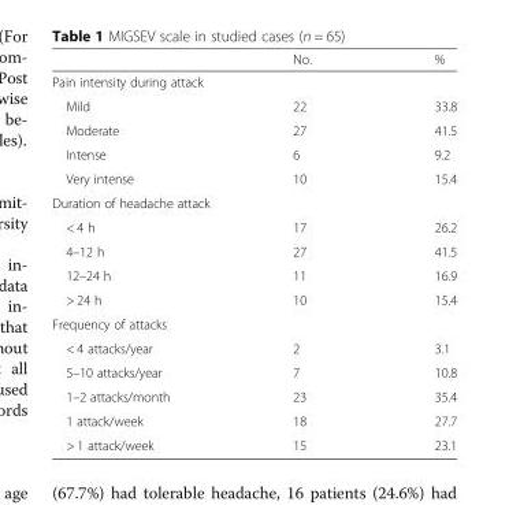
<table><thead><tr><td></td><td>No.</td><td>%</td></tr></thead><tbody><tr><td colspan="3">Pain intensity during attack</td></tr><tr><td>Mild</td><td>22</td><td>33.8</td></tr><tr><td>Moderate</td><td>27</td><td>41.5</td></tr><tr><td>Intense</td><td>6</td><td>9.2</td></tr><tr><td>Very intense</td><td>10</td><td>15.4</td></tr><tr><td colspan="3">Duration of headache attack</td></tr><tr><td>&lt; 4 h</td><td>17</td><td>26.2</td></tr><tr><td>4–12 h</td><td>27</td><td>41.5</td></tr><tr><td>12–24 h</td><td>11</td><td>16.9</td></tr><tr><td>&gt; 24 h</td><td>10</td><td>15.4</td></tr><tr><td colspan="3">Frequency of attacks</td></tr><tr><td>&lt; 4 attacks/year</td><td>2</td><td>3.1</td></tr><tr><td>5–10 attacks/year</td><td>7</td><td>10.8</td></tr><tr><td>1–2 attacks/month</td><td>23</td><td>35.4</td></tr><tr><td>1 attack/week</td><td>18</td><td>27.7</td></tr><tr><td>&gt; 1 attack/week</td><td>15</td><td>23.1</td></tr></tbody></table>